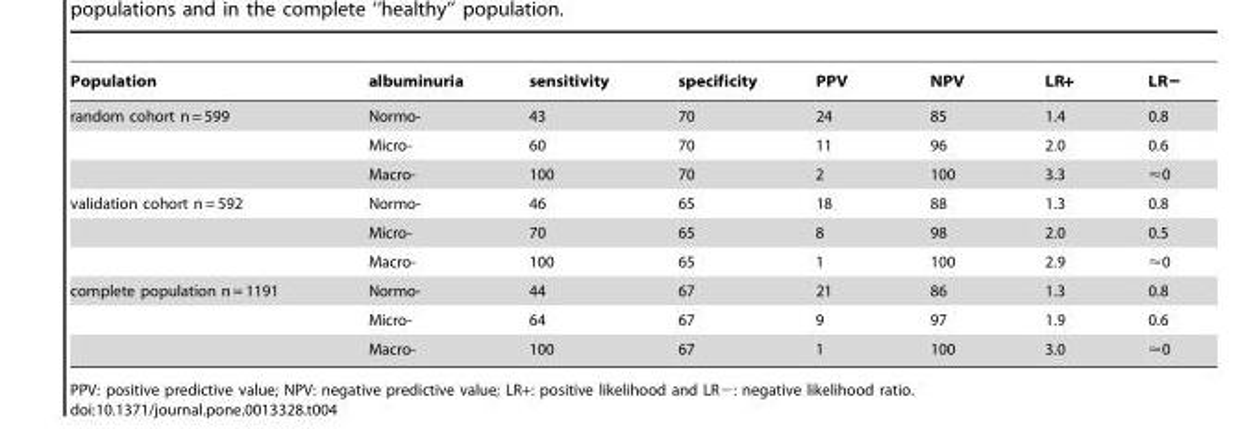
<table><thead><tr><td>Population</td><td>albuminuria</td><td>sensitivity</td><td>specificity</td><td>PPV</td><td>NPV</td><td>LR+</td><td>LR−</td></tr></thead><tbody><tr><td rowspan="3">random cohort n = 599</td><td>Normo-</td><td>43</td><td>70</td><td>24</td><td>85</td><td>1.4</td><td>0.8</td></tr><tr><td>Micro-</td><td>60</td><td>70</td><td>11</td><td>96</td><td>2.0</td><td>0.6</td></tr><tr><td>Macro-</td><td>100</td><td>70</td><td>2</td><td>100</td><td>3.3</td><td>&lt;0</td></tr><tr><td rowspan="3">validation cohort n = 592</td><td>Normo-</td><td>46</td><td>65</td><td>18</td><td>88</td><td>1.3</td><td>0.8</td></tr><tr><td>Micro-</td><td>70</td><td>65</td><td>8</td><td>98</td><td>2.0</td><td>0.5</td></tr><tr><td>Macro-</td><td>100</td><td>65</td><td>1</td><td>100</td><td>2.9</td><td>&lt;0</td></tr><tr><td rowspan="3">complete population n = 1191</td><td>Normo-</td><td>44</td><td>67</td><td>21</td><td>86</td><td>1.3</td><td>0.8</td></tr><tr><td>Micro-</td><td>64</td><td>67</td><td>9</td><td>97</td><td>1.9</td><td>0.6</td></tr><tr><td>Macro-</td><td>100</td><td>67</td><td>1</td><td>100</td><td>3.0</td><td>&lt;0</td></tr></tbody></table>